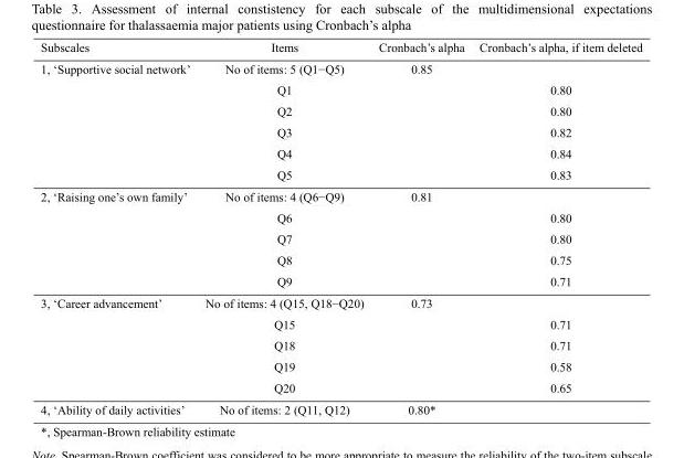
<table><thead><tr><td>Subscales</td><td>Items</td><td>Cronbach’s alpha</td><td>Cronbach’s alpha, if item deleted</td></tr></thead><tbody><tr><td rowspan="6">1, ‘Supportive social network’</td><td>No of items: 5 (Q1−Q5)</td><td>0.85</td><td></td></tr><tr><td>Q1</td><td></td><td>0.80</td></tr><tr><td>Q2</td><td></td><td>0.80</td></tr><tr><td>Q3</td><td></td><td>0.82</td></tr><tr><td>Q4</td><td></td><td>0.84</td></tr><tr><td>Q5</td><td></td><td>0.83</td></tr><tr><td rowspan="5">2, ‘Raising one’s own family’</td><td>No of items: 4 (Q6−Q9)</td><td>0.81</td><td></td></tr><tr><td>Q6</td><td></td><td>0.80</td></tr><tr><td>Q7</td><td></td><td>0.80</td></tr><tr><td>Q8</td><td></td><td>0.75</td></tr><tr><td>Q9</td><td></td><td>0.71</td></tr><tr><td rowspan="5">3, ‘Career advancement’</td><td>No of items: 4 (Q15, Q18−Q20)</td><td>0.73</td><td></td></tr><tr><td>Q15</td><td></td><td>0.71</td></tr><tr><td>Q18</td><td></td><td>0.71</td></tr><tr><td>Q19</td><td></td><td>0.58</td></tr><tr><td>Q20</td><td></td><td>0.65</td></tr><tr><td>4, ‘Ability of daily activities’</td><td>No of items: 2 (Q11, Q12)</td><td>0.80*</td><td></td></tr></tbody></table>